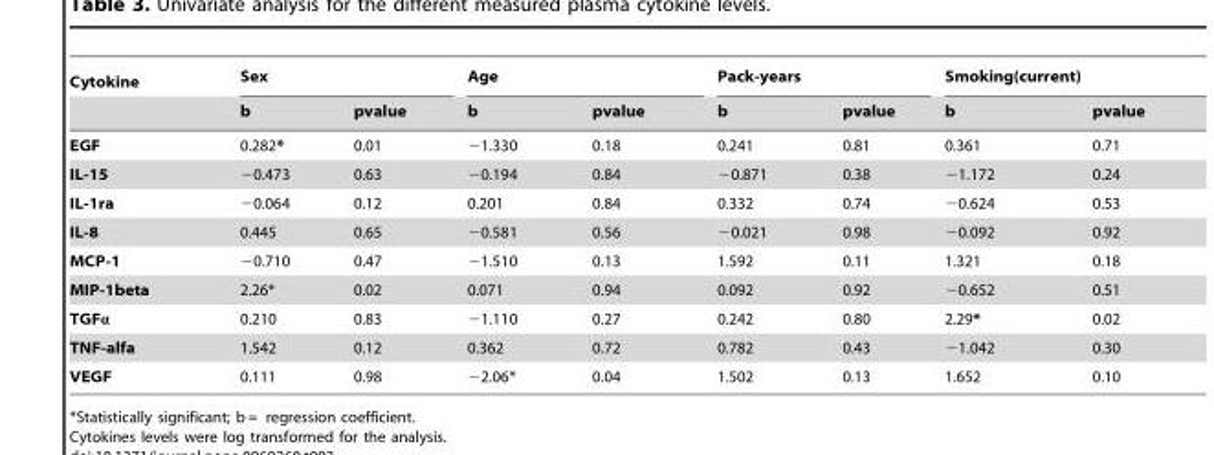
<table><thead><tr><td rowspan="2">Cytokine</td><td colspan="2">Sex</td><td colspan="2">Age</td><td colspan="2">Pack-years</td><td colspan="2">Smoking(current)</td></tr><tr><td>b</td><td>pvalue</td><td>b</td><td>pvalue</td><td>b</td><td>pvalue</td><td>b</td><td>pvalue</td></tr></thead><tbody><tr><td>EGF</td><td>0.282*</td><td>0.01</td><td>−1.330</td><td>0.18</td><td>0.241</td><td>0.81</td><td>0.361</td><td>0.71</td></tr><tr><td>IL-15</td><td>−0.473</td><td>0.63</td><td>−0.194</td><td>0.84</td><td>−0.871</td><td>0.38</td><td>−1.172</td><td>0.24</td></tr><tr><td>IL-1ra</td><td>−0.064</td><td>0.12</td><td>0.201</td><td>0.84</td><td>0.332</td><td>0.74</td><td>−0.624</td><td>0.53</td></tr><tr><td>IL-8</td><td>0.445</td><td>0.65</td><td>−0.581</td><td>0.56</td><td>−0.021</td><td>0.98</td><td>−0.092</td><td>0.92</td></tr><tr><td>MCP-1</td><td>−0.710</td><td>0.47</td><td>−1.510</td><td>0.13</td><td>1.592</td><td>0.11</td><td>1.321</td><td>0.18</td></tr><tr><td>MIP-1beta</td><td>2.26*</td><td>0.02</td><td>0.071</td><td>0.94</td><td>0.092</td><td>0.92</td><td>−0.652</td><td>0.51</td></tr><tr><td>TGFα</td><td>0.210</td><td>0.83</td><td>−1.110</td><td>0.27</td><td>0.242</td><td>0.80</td><td>2.29*</td><td>0.02</td></tr><tr><td>TNF-alfa</td><td>1.542</td><td>0.12</td><td>0.362</td><td>0.72</td><td>0.782</td><td>0.43</td><td>−1.042</td><td>0.30</td></tr><tr><td>VEGF</td><td>0.111</td><td>0.98</td><td>−2.06*</td><td>0.04</td><td>1.502</td><td>0.13</td><td>1.652</td><td>0.10</td></tr></tbody></table>